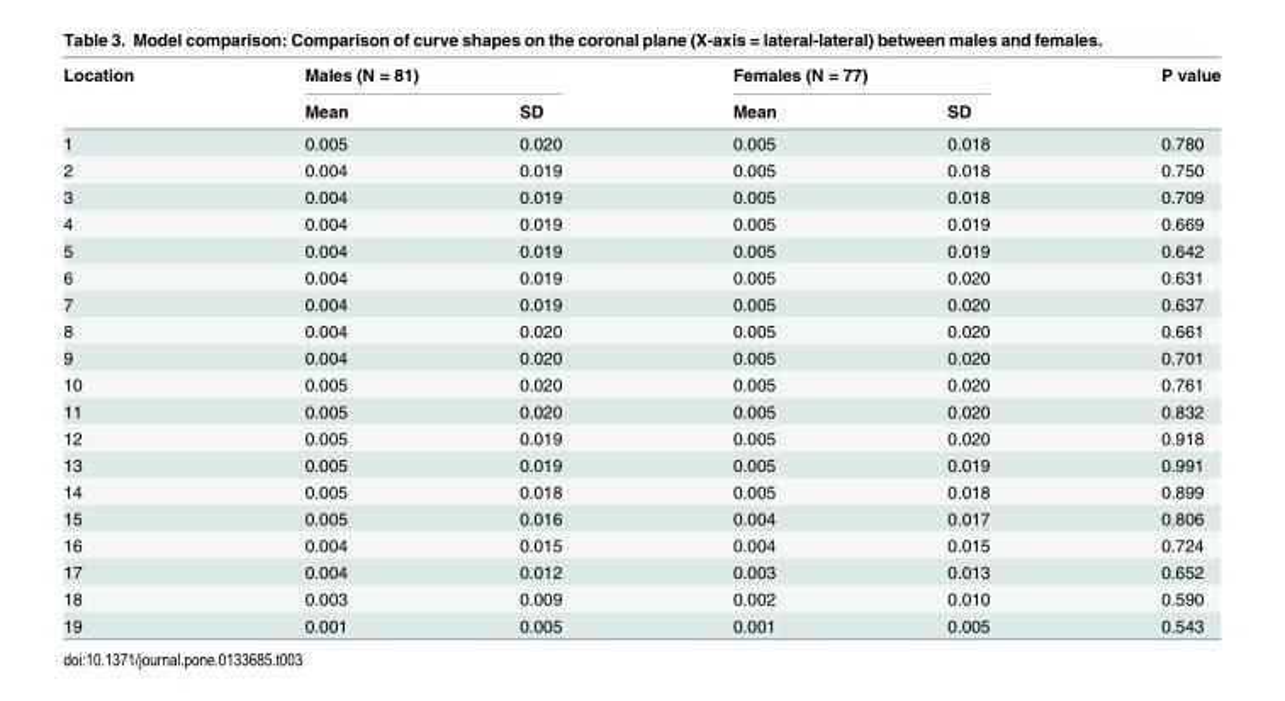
<table><thead><tr><td rowspan="2">Location</td><td colspan="2">Males (N = 81)</td><td colspan="2">Females (N = 77)</td><td rowspan="2">P value</td></tr><tr><td>Mean</td><td>SD</td><td>Mean</td><td>SD</td></tr></thead><tbody><tr><td>1</td><td>0.005</td><td>0.020</td><td>0.005</td><td>0.018</td><td>0.780</td></tr><tr><td>2</td><td>0.004</td><td>0.019</td><td>0.005</td><td>0.018</td><td>0.750</td></tr><tr><td>3</td><td>0.004</td><td>0.019</td><td>0.005</td><td>0.018</td><td>0.709</td></tr><tr><td>4</td><td>0.004</td><td>0.019</td><td>0.005</td><td>0.019</td><td>0.669</td></tr><tr><td>5</td><td>0.004</td><td>0.019</td><td>0.005</td><td>0.019</td><td>0.642</td></tr><tr><td>6</td><td>0.004</td><td>0.019</td><td>0.005</td><td>0.020</td><td>0.631</td></tr><tr><td>7</td><td>0.004</td><td>0.019</td><td>0.005</td><td>0.020</td><td>0.637</td></tr><tr><td>8</td><td>0.004</td><td>0.020</td><td>0.005</td><td>0.020</td><td>0.661</td></tr><tr><td>9</td><td>0.004</td><td>0.020</td><td>0.005</td><td>0.020</td><td>0.701</td></tr><tr><td>10</td><td>0.005</td><td>0.020</td><td>0.005</td><td>0.020</td><td>0.761</td></tr><tr><td>11</td><td>0.005</td><td>0.020</td><td>0.005</td><td>0.020</td><td>0.832</td></tr><tr><td>12</td><td>0.005</td><td>0.019</td><td>0.005</td><td>0.020</td><td>0.918</td></tr><tr><td>13</td><td>0.005</td><td>0.019</td><td>0.005</td><td>0.019</td><td>0.991</td></tr><tr><td>14</td><td>0.005</td><td>0.018</td><td>0.005</td><td>0.018</td><td>0.899</td></tr><tr><td>15</td><td>0.005</td><td>0.016</td><td>0.004</td><td>0.017</td><td>0.806</td></tr><tr><td>16</td><td>0.004</td><td>0.015</td><td>0.004</td><td>0.015</td><td>0.724</td></tr><tr><td>17</td><td>0.004</td><td>0.012</td><td>0.003</td><td>0.013</td><td>0.652</td></tr><tr><td>18</td><td>0.003</td><td>0.009</td><td>0.002</td><td>0.010</td><td>0.590</td></tr><tr><td>19</td><td>0.001</td><td>0.005</td><td>0.001</td><td>0.005</td><td>0.543</td></tr></tbody></table>